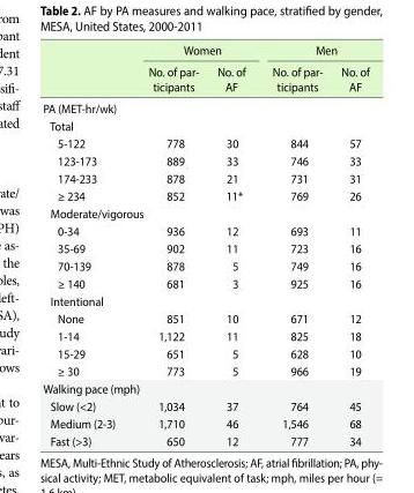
<table><thead><tr><td rowspan="2"></td><td colspan="2">Women</td><td colspan="2">Men</td></tr><tr><td>No. of par- ticipants</td><td>No. of AF</td><td>No. of par- ticipants</td><td>No. of AF</td></tr></thead><tbody><tr><td colspan="5">PA (MET-hr/wk)</td></tr><tr><td colspan="5">Total</td></tr><tr><td>5-122</td><td>778</td><td>30</td><td>844</td><td>57</td></tr><tr><td>123-173</td><td>889</td><td>33</td><td>746</td><td>33</td></tr><tr><td>174-233</td><td>878</td><td>21</td><td>731</td><td>31</td></tr><tr><td>≥ 234</td><td>852</td><td>11*</td><td>769</td><td>26</td></tr><tr><td colspan="5">Moderate/vigorous</td></tr><tr><td>0-34</td><td>936</td><td>12</td><td>693</td><td>11</td></tr><tr><td>35-69</td><td>902</td><td>11</td><td>723</td><td>16</td></tr><tr><td>70-139</td><td>878</td><td>5</td><td>749</td><td>16</td></tr><tr><td>≥ 140</td><td>681</td><td>3</td><td>925</td><td>16</td></tr><tr><td colspan="5">Intentional</td></tr><tr><td>None</td><td>851</td><td>10</td><td>671</td><td>12</td></tr><tr><td>1-14</td><td>1,122</td><td>11</td><td>825</td><td>18</td></tr><tr><td>15-29</td><td>651</td><td>5</td><td>628</td><td>10</td></tr><tr><td>≥ 30</td><td>773</td><td>5</td><td>966</td><td>19</td></tr><tr><td colspan="5">Walking pace (mph)</td></tr><tr><td>Slow (&lt;2)</td><td>1,034</td><td>37</td><td>764</td><td>45</td></tr><tr><td>Medium (2-3)</td><td>1,710</td><td>46</td><td>1,546</td><td>68</td></tr><tr><td>Fast (&gt;3)</td><td>650</td><td>12</td><td>777</td><td>34</td></tr></tbody></table>